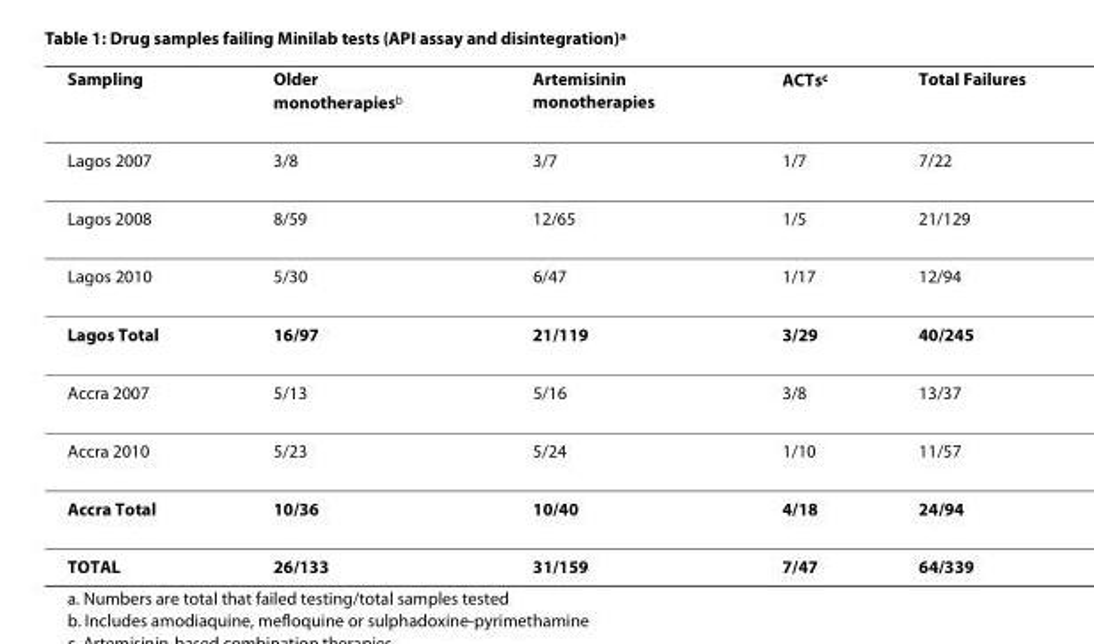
<table><thead><tr><td>Sampling</td><td>Older monotherapies<sup>b</sup></td><td>Artemisinin monotherapies</td><td>ACTs<sup>c</sup></td><td>Total Failures</td></tr></thead><tbody><tr><td>Lagos 2007</td><td>3/8</td><td>3/7</td><td>1/7</td><td>7/22</td></tr><tr><td>Lagos 2008</td><td>8/59</td><td>12/65</td><td>1/5</td><td>21/129</td></tr><tr><td>Lagos 2010</td><td>5/30</td><td>6/47</td><td>1/17</td><td>12/94</td></tr><tr><td>Lagos Total</td><td>16/97</td><td>21/119</td><td>3/29</td><td>40/245</td></tr><tr><td>Accra 2007</td><td>5/13</td><td>5/16</td><td>3/8</td><td>13/37</td></tr><tr><td>Accra 2010</td><td>5/23</td><td>5/24</td><td>1/10</td><td>11/57</td></tr><tr><td>Accra Total</td><td>10/36</td><td>10/40</td><td>4/18</td><td>24/94</td></tr><tr><td>TOTAL</td><td>26/133</td><td>31/159</td><td>7/47</td><td>64/339</td></tr></tbody></table>